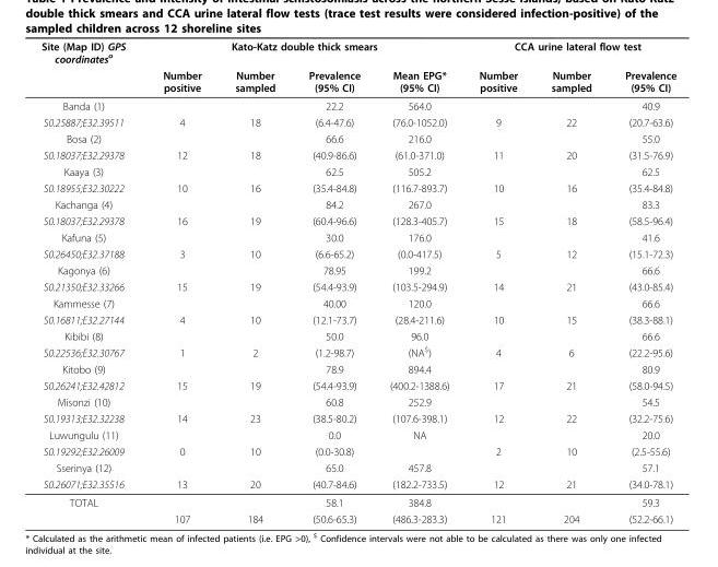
<table><thead><tr><td rowspan="2">Site (Map ID) GPS coordinates<sup>o</sup></td><td colspan="4">Kato-Katz double thick smears</td><td colspan="3">CCA urine lateral flow test</td></tr><tr><td>Number positive</td><td>Number sampled</td><td>Prevalence (95% CI)</td><td>Mean EPG* (95% CI)</td><td>Number positive</td><td>Number sampled</td><td>Prevalence (95% CI)</td></tr></thead><tbody><tr><td>Banda (1)</td><td></td><td></td><td>22.2</td><td>564.0</td><td></td><td></td><td>40.9</td></tr><tr><td>S0.25887;E32.39511</td><td>4</td><td>18</td><td>(6.4-47.6)</td><td>(76.0-1052.0)</td><td>9</td><td>22</td><td>(20.7-63.6)</td></tr><tr><td>Bosa (2)</td><td></td><td></td><td>66.6</td><td>216.0</td><td></td><td></td><td>55.0</td></tr><tr><td>S0.18037;E32.29378</td><td>12</td><td>18</td><td>(40.9-86.6)</td><td>(61.0-371.0)</td><td>11</td><td>20</td><td>(31.5-76.9)</td></tr><tr><td>Kaaya (3)</td><td></td><td></td><td>62.5</td><td>505.2</td><td></td><td></td><td>62.5</td></tr><tr><td>S0.18955;E32.30222</td><td>10</td><td>16</td><td>(35.4-84.8)</td><td>(116.7-893.7)</td><td>10</td><td>16</td><td>(35.4-84.8)</td></tr><tr><td>Kachanga (4)</td><td></td><td></td><td>84.2</td><td>267.0</td><td></td><td></td><td>83.3</td></tr><tr><td>S0.18037;E32.29378</td><td>16</td><td>19</td><td>(60.4-96.6)</td><td>(128.3-405.7)</td><td>15</td><td>18</td><td>(58.5-96.4)</td></tr><tr><td>Kafuna (5)</td><td></td><td></td><td>30.0</td><td>176.0</td><td></td><td></td><td>41.6</td></tr><tr><td>S0.26450;E32.37188</td><td>3</td><td>10</td><td>(6.6-65.2)</td><td>(0.0-417.5)</td><td>5</td><td>12</td><td>(15.1-72.3)</td></tr><tr><td>Kagonya (6)</td><td></td><td></td><td>78.95</td><td>199.2</td><td></td><td></td><td>66.6</td></tr><tr><td>S0.21350;E32.33266</td><td>15</td><td>19</td><td>(54.4-93.9)</td><td>(103.5-294.9)</td><td>14</td><td>21</td><td>(43.0-85.4)</td></tr><tr><td>Kammesse (7)</td><td></td><td></td><td>40.00</td><td>120.0</td><td></td><td></td><td>66.6</td></tr><tr><td>S0.16811;E32.27144</td><td>4</td><td>10</td><td>(12.1-73.7)</td><td>(28.4-211.6)</td><td>10</td><td>15</td><td>(38.3-88.1)</td></tr><tr><td>Kibibi (8)</td><td></td><td></td><td>50.0</td><td>96.0</td><td></td><td></td><td>66.6</td></tr><tr><td>S0.22536;E32.30767</td><td>1</td><td>2</td><td>(1.2-98.7)</td><td>(NA<sup>$</sup>)</td><td>4</td><td>6</td><td>(22.2-95.6)</td></tr><tr><td>Kitobo (9)</td><td></td><td></td><td>78.9</td><td>894.4</td><td></td><td></td><td>80.9</td></tr><tr><td>S0.26241;E32.42812</td><td>15</td><td>19</td><td>(54.4-93.9)</td><td>(400.2-1388.6)</td><td>17</td><td>21</td><td>(58.0-94.5)</td></tr><tr><td>Misonzi (10)</td><td></td><td></td><td>60.8</td><td>252.9</td><td></td><td></td><td>54.5</td></tr><tr><td>S0.19313;E32.32238</td><td>14</td><td>23</td><td>(38.5-80.2)</td><td>(107.6-398.1)</td><td>12</td><td>22</td><td>(32.2-75.6)</td></tr><tr><td>Luwungulu (11)</td><td></td><td></td><td>0.0</td><td>NA</td><td></td><td></td><td>20.0</td></tr><tr><td>S0.19292;E32.26009</td><td>0</td><td>10</td><td>(0.0-30.8)</td><td></td><td>2</td><td>10</td><td>(2.5-55.6)</td></tr><tr><td>Sserinya (12)</td><td></td><td></td><td>65.0</td><td>457.8</td><td></td><td></td><td>57.1</td></tr><tr><td>S0.26071;E32.35516</td><td>13</td><td>20</td><td>(40.7-84.6)</td><td>(182.2-733.5)</td><td>12</td><td>21</td><td>(34.0-78.1)</td></tr><tr><td rowspan="2">TOTAL</td><td></td><td></td><td>58.1</td><td>384.8</td><td></td><td></td><td>59.3</td></tr><tr><td>107</td><td>184</td><td>(50.6-65.3)</td><td>(486.3-283.3)</td><td>121</td><td>204</td><td>(52.2-66.1)</td></tr></tbody></table>